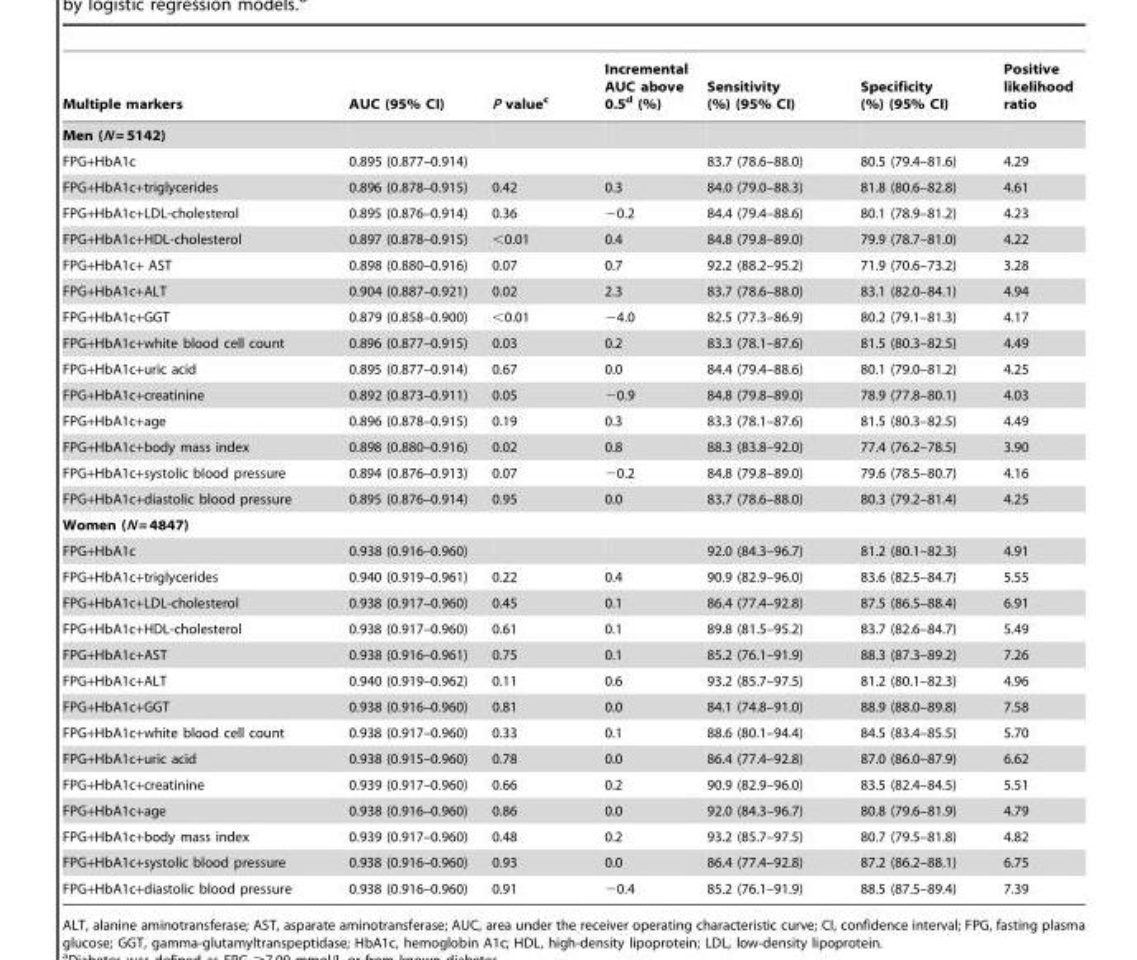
<table><thead><tr><td>Multiple markers</td><td>AUC (95% CI)</td><td>P value<sup>c</sup></td><td>Incremental AUC above 0.5<sup>d</sup> (%)</td><td>Sensitivity (%) (95% CI)</td><td>Specificity (%) (95% CI)</td><td>Positive likelihood ratio</td></tr></thead><tbody><tr><td colspan="7">Men (N = 5142)</td></tr><tr><td>FPG+HbA1c</td><td>0.895 (0.877–0.914)</td><td></td><td></td><td>83.7 (78.6–88.0)</td><td>80.5 (79.4–81.6)</td><td>4.29</td></tr><tr><td>FPG+HbA1c+triglycerides</td><td>0.896 (0.878–0.915)</td><td>0.42</td><td>0.3</td><td>84.0 (79.0–88.3)</td><td>81.8 (80.6–82.8)</td><td>4.61</td></tr><tr><td>FPG+HbA1c+LDL-cholesterol</td><td>0.895 (0.876–0.914)</td><td>0.36</td><td>−0.2</td><td>84.4 (79.4–88.6)</td><td>80.1 (78.9–81.2)</td><td>4.23</td></tr><tr><td>FPG+HbA1c+HDL-cholesterol</td><td>0.897 (0.878–0.915)</td><td>&lt;0.01</td><td>0.4</td><td>84.8 (79.8–89.0)</td><td>79.9 (78.7–81.0)</td><td>4.22</td></tr><tr><td>FPG+HbA1c+ AST</td><td>0.898 (0.880–0.916)</td><td>0.07</td><td>0.7</td><td>92.2 (88.2–95.2)</td><td>71.9 (70.6–73.2)</td><td>3.28</td></tr><tr><td>FPG+HbA1c+ALT</td><td>0.904 (0.887–0.921)</td><td>0.02</td><td>2.3</td><td>83.7 (78.6–88.0)</td><td>83.1 (82.0–84.1)</td><td>4.94</td></tr><tr><td>FPG+HbA1c+GGT</td><td>0.879 (0.858–0.900)</td><td>&lt;0.01</td><td>−4.0</td><td>82.5 (77.3–86.9)</td><td>80.2 (79.1–81.3)</td><td>4.17</td></tr><tr><td>FPG+HbA1c+white blood cell count</td><td>0.896 (0.877–0.915)</td><td>0.03</td><td>0.2</td><td>83.3 (78.1–87.6)</td><td>81.5 (80.3–82.5)</td><td>4.49</td></tr><tr><td>FPG+HbA1c+uric acid</td><td>0.895 (0.877–0.914)</td><td>0.67</td><td>0.0</td><td>84.4 (79.4–88.6)</td><td>80.1 (79.0–81.2)</td><td>4.25</td></tr><tr><td>FPG+HbA1c+creatinine</td><td>0.892 (0.873–0.911)</td><td>0.05</td><td>−0.9</td><td>84.8 (79.8–89.0)</td><td>78.9 (77.8–80.1)</td><td>4.03</td></tr><tr><td>FPG+HbA1c+age</td><td>0.896 (0.878–0.915)</td><td>0.19</td><td>0.3</td><td>83.3 (78.1–87.6)</td><td>81.5 (80.3–82.5)</td><td>4.49</td></tr><tr><td>FPG+HbA1c+body mass index</td><td>0.898 (0.880–0.916)</td><td>0.02</td><td>0.8</td><td>88.3 (83.8–92.0)</td><td>77.4 (76.2–78.5)</td><td>3.90</td></tr><tr><td>FPG+HbA1c+systolic blood pressure</td><td>0.894 (0.876–0.913)</td><td>0.07</td><td>−0.2</td><td>84.8 (79.8–89.0)</td><td>79.6 (78.5–80.7)</td><td>4.16</td></tr><tr><td>FPG+HbA1c+diastolic blood pressure</td><td>0.895 (0.876–0.914)</td><td>0.95</td><td>0.0</td><td>83.7 (78.6–88.0)</td><td>80.3 (79.2–81.4)</td><td>4.25</td></tr><tr><td colspan="7">Women (N = 4847)</td></tr><tr><td>FPG+HbA1c</td><td>0.938 (0.916–0.960)</td><td></td><td></td><td>92.0 (84.3–96.7)</td><td>81.2 (80.1–82.3)</td><td>4.91</td></tr><tr><td>FPG+HbA1c+triglycerides</td><td>0.940 (0.919–0.961)</td><td>0.22</td><td>0.4</td><td>90.9 (82.9–96.0)</td><td>83.6 (82.5–84.7)</td><td>5.55</td></tr><tr><td>FPG+HbA1c+LDL-cholesterol</td><td>0.938 (0.917–0.960)</td><td>0.45</td><td>0.1</td><td>86.4 (77.4–92.8)</td><td>87.5 (86.5–88.4)</td><td>6.91</td></tr><tr><td>FPG+HbA1c+HDL-cholesterol</td><td>0.938 (0.917–0.960)</td><td>0.61</td><td>0.1</td><td>89.8 (81.5–95.2)</td><td>83.7 (82.6–84.7)</td><td>5.49</td></tr><tr><td>FPG+HbA1c+AST</td><td>0.938 (0.916–0.961)</td><td>0.75</td><td>0.1</td><td>85.2 (76.1–91.9)</td><td>88.3 (87.3–89.2)</td><td>7.26</td></tr><tr><td>FPG+HbA1c+ALT</td><td>0.940 (0.919–0.962)</td><td>0.11</td><td>0.6</td><td>93.2 (85.7–97.5)</td><td>81.2 (80.1–82.3)</td><td>4.96</td></tr><tr><td>FPG+HbA1c+GGT</td><td>0.938 (0.916–0.960)</td><td>0.81</td><td>0.0</td><td>84.1 (74.8–91.0)</td><td>88.9 (88.0–89.8)</td><td>7.58</td></tr><tr><td>FPG+HbA1c+white blood cell count</td><td>0.938 (0.917–0.960)</td><td>0.33</td><td>0.1</td><td>88.6 (80.1–94.4)</td><td>84.5 (83.4–85.5)</td><td>5.70</td></tr><tr><td>FPG+HbA1c+uric acid</td><td>0.938 (0.915–0.960)</td><td>0.78</td><td>0.0</td><td>86.4 (77.4–92.8)</td><td>87.0 (86.0–87.9)</td><td>6.62</td></tr><tr><td>FPG+HbA1c+creatinine</td><td>0.939 (0.917–0.960)</td><td>0.66</td><td>0.2</td><td>90.9 (82.9–96.0)</td><td>83.5 (82.4–84.5)</td><td>5.51</td></tr><tr><td>FPG+HbA1c+age</td><td>0.938 (0.916–0.960)</td><td>0.86</td><td>0.0</td><td>92.0 (84.3–96.7)</td><td>80.8 (79.6–81.9)</td><td>4.79</td></tr><tr><td>FPG+HbA1c+body mass index</td><td>0.939 (0.917–0.960)</td><td>0.48</td><td>0.2</td><td>93.2 (85.7–97.5)</td><td>80.7 (79.5–81.8)</td><td>4.82</td></tr><tr><td>FPG+HbA1c+systolic blood pressure</td><td>0.938 (0.916–0.960)</td><td>0.93</td><td>0.0</td><td>86.4 (77.4–92.8)</td><td>87.2 (86.2–88.1)</td><td>6.75</td></tr><tr><td>FPG+HbA1c+diastolic blood pressure</td><td>0.938 (0.916–0.960)</td><td>0.91</td><td>−0.4</td><td>85.2 (76.1–91.9)</td><td>88.5 (87.5–89.4)</td><td>7.39</td></tr></tbody></table>